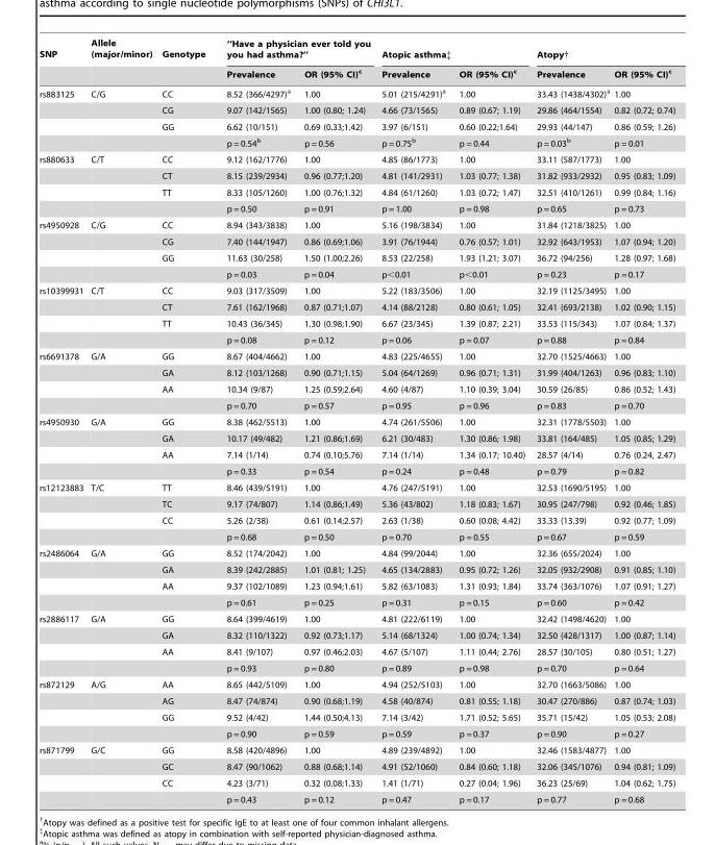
<table><thead><tr><td rowspan="2">SNP</td><td rowspan="2">Allele (major/minor)</td><td rowspan="2">Genotype</td><td colspan="2">‘‘Have a physician ever told you you had asthma?’’</td><td colspan="2">Atopic asthma‡</td><td colspan="2">Atopy†</td></tr><tr><td>Prevalence</td><td>OR (95% CI)<sup>c</sup></td><td>Prevalence</td><td>OR (95% CI)<sup>c</sup></td><td>Prevalence</td><td>OR (95% CI)<sup>c</sup></td></tr></thead><tbody><tr><td rowspan="4">rs883125</td><td>C/G</td><td>CC</td><td>8.52 (366/4297)<sup>a</sup></td><td>1.00</td><td>5.01 (215/4291)<sup>a</sup></td><td>1.00</td><td>33.43 (1438/4302)<sup>a</sup></td><td>1.00</td></tr><tr><td></td><td>CG</td><td>9.07 (142/1565)</td><td>1.00 (0.80; 1.24)</td><td>4.66 (73/1565)</td><td>0.89 (0.67; 1.19)</td><td>29.86 (464/1554)</td><td>0.82 (0.72; 0.74)</td></tr><tr><td></td><td>GG</td><td>6.62 (10/151)</td><td>0.69 (0.33;1.42)</td><td>3.97 (6/151)</td><td>0.60 (0.22;1.64)</td><td>29.93 (44/147)</td><td>0.86 (0.59; 1.26)</td></tr><tr><td></td><td></td><td>p = 0.54<sup>b</sup></td><td>p = 0.56</td><td>p = 0.75<sup>b</sup></td><td>p = 0.44</td><td>p = 0.03<sup>b</sup></td><td>p = 0.01</td></tr><tr><td rowspan="4">rs880633</td><td>C/T</td><td>CC</td><td>9.12 (162/1776)</td><td>1.00</td><td>4.85 (86/1773)</td><td>1.00</td><td>33.11 (587/1773)</td><td>1.00</td></tr><tr><td></td><td>CT</td><td>8.15 (239/2934)</td><td>0.96 (0.77;1.20)</td><td>4.81 (141/2931)</td><td>1.03 (0.77; 1.38)</td><td>31.82 (933/2932)</td><td>0.95 (0.83; 1.09)</td></tr><tr><td></td><td>TT</td><td>8.33 (105/1260)</td><td>1.00 (0.76;1.32)</td><td>4.84 (61/1260)</td><td>1.03 (0.72; 1.47)</td><td>32.51 (410/1261)</td><td>0.99 (0.84; 1.16)</td></tr><tr><td></td><td></td><td>p = 0.50</td><td>p = 0.91</td><td>p = 1.00</td><td>p = 0.98</td><td>p = 0.65</td><td>p = 0.73</td></tr><tr><td rowspan="4">rs4950928</td><td>C/G</td><td>CC</td><td>8.94 (343/3838)</td><td>1.00</td><td>5.16 (198/3834)</td><td>1.00</td><td>31.84 (1218/3825)</td><td>1.00</td></tr><tr><td></td><td>CG</td><td>7.40 (144/1947)</td><td>0.86 (0.69;1.06)</td><td>3.91 (76/1944)</td><td>0.76 (0.57; 1.01)</td><td>32.92 (643/1953)</td><td>1.07 (0.94; 1.20)</td></tr><tr><td></td><td>GG</td><td>11.63 (30/258)</td><td>1.50 (1.00;2.26)</td><td>8.53 (22/258)</td><td>1.93 (1.21; 3.07)</td><td>36.72 (94/256)</td><td>1.28 (0.97; 1.68)</td></tr><tr><td></td><td></td><td>p = 0.03</td><td>p = 0.04</td><td>p&lt;0.01</td><td>p&lt;0.01</td><td>p = 0.23</td><td>p = 0.17</td></tr><tr><td rowspan="4">rs10399931</td><td>C/T</td><td>CC</td><td>9.03 (317/3509)</td><td>1.00</td><td>5.22 (183/3506)</td><td>1.00</td><td>32.19 (1125/3495)</td><td>1.00</td></tr><tr><td></td><td>CT</td><td>7.61 (162/1968)</td><td>0.87 (0.71;1.07)</td><td>4.14 (88/2128)</td><td>0.80 (0.61; 1.05)</td><td>32.41 (693/2138)</td><td>1.02 (0.90; 1.15)</td></tr><tr><td></td><td>TT</td><td>10.43 (36/345)</td><td>1.30 (0.98;1.90)</td><td>6.67 (23/345)</td><td>1.39 (0.87; 2.21)</td><td>33.53 (115/343)</td><td>1.07 (0.84; 1.37)</td></tr><tr><td></td><td></td><td>p = 0.08</td><td>p = 0.12</td><td>p = 0.06</td><td>p = 0.07</td><td>p = 0.88</td><td>p = 0.84</td></tr><tr><td rowspan="4">rs6691378</td><td>G/A</td><td>GG</td><td>8.67 (404/4662)</td><td>1.00</td><td>4.83 (225/4655)</td><td>1.00</td><td>32.70 (1525/4663)</td><td>1.00</td></tr><tr><td></td><td>GA</td><td>8.12 (103/1268)</td><td>0.90 (0.71;1.15)</td><td>5.04 (64/1269)</td><td>0.96 (0.71; 1.31)</td><td>31.99 (404/1263)</td><td>0.96 (0.83; 1.10)</td></tr><tr><td></td><td>AA</td><td>10.34 (9/87)</td><td>1.25 (0.59;2.64)</td><td>4.60 (4/87)</td><td>1.10 (0.39; 3.04)</td><td>30.59 (26/85)</td><td>0.86 (0.52; 1.43)</td></tr><tr><td></td><td></td><td>p = 0.70</td><td>p = 0.57</td><td>p = 0.95</td><td>p = 0.96</td><td>p = 0.83</td><td>p = 0.70</td></tr><tr><td rowspan="4">rs4950930</td><td>G/A</td><td>GG</td><td>8.38 (462/5513)</td><td>1.00</td><td>4.74 (261/5506)</td><td>1.00</td><td>32.31 (1778/5503)</td><td>1.00</td></tr><tr><td></td><td>GA</td><td>10.17 (49/482)</td><td>1.21 (0.86;1.69)</td><td>6.21 (30/483)</td><td>1.30 (0.86; 1.98)</td><td>33.81 (164/485)</td><td>1.05 (0.85; 1.29)</td></tr><tr><td></td><td>AA</td><td>7.14 (1/14)</td><td>0.74 (0.10;5.76)</td><td>7.14 (1/14)</td><td>1.34 (0.17; 10.40)</td><td>28.57 (4/14)</td><td>0.76 (0.24, 2.47)</td></tr><tr><td></td><td></td><td>p = 0.33</td><td>p = 0.54</td><td>p = 0.24</td><td>p = 0.48</td><td>p = 0.79</td><td>p = 0.82</td></tr><tr><td rowspan="4">rs12123883</td><td>T/C</td><td>TT</td><td>8.46 (439/5191)</td><td>1.00</td><td>4.76 (247/5191)</td><td>1.00</td><td>32.53 (1690/5195)</td><td>1.00</td></tr><tr><td></td><td>TC</td><td>9.17 (74/807)</td><td>1.14 (0.86;1.49)</td><td>5.36 (43/802)</td><td>1.18 (0.83; 1.67)</td><td>30.95 (247/798)</td><td>0.92 (0.46; 1.85)</td></tr><tr><td></td><td>CC</td><td>5.26 (2/38)</td><td>0.61 (0.14;2.57)</td><td>2.63 (1/38)</td><td>0.60 (0.08; 4.42)</td><td>33.33 (13.39)</td><td>0.92 (0.77; 1.09)</td></tr><tr><td></td><td></td><td>p = 0.68</td><td>p = 0.50</td><td>p = 0.70</td><td>p = 0.55</td><td>p = 0.67</td><td>p = 0.59</td></tr><tr><td rowspan="4">rs2486064</td><td>G/A</td><td>GG</td><td>8.52 (174/2042)</td><td>1.00</td><td>4.84 (99/2044)</td><td>1.00</td><td>32.36 (655/2024)</td><td>1.00</td></tr><tr><td></td><td>GA</td><td>8.39 (242/2885)</td><td>1.01 (0.81; 1.25)</td><td>4.65 (134/2883)</td><td>0.95 (0.72; 1.26)</td><td>32.05 (932/2908)</td><td>0.91 (0.85; 1.10)</td></tr><tr><td></td><td>AA</td><td>9.37 (102/1089)</td><td>1.23 (0.94;1.61)</td><td>5.82 (63/1083)</td><td>1.31 (0.93; 1.84)</td><td>33.74 (363/1076)</td><td>1.07 (0.91; 1.27)</td></tr><tr><td></td><td></td><td>p = 0.61</td><td>p = 0.25</td><td>p = 0.31</td><td>p = 0.15</td><td>p = 0.60</td><td>p = 0.42</td></tr><tr><td rowspan="4">rs2886117</td><td>G/A</td><td>GG</td><td>8.64 (399/4619)</td><td>1.00</td><td>4.81 (222/6119)</td><td>1.00</td><td>32.42 (1498/4620)</td><td>1.00</td></tr><tr><td></td><td>GA</td><td>8.32 (110/1322)</td><td>0.92 (0.73;1.17)</td><td>5.14 (68/1324)</td><td>1.00 (0.74; 1.34)</td><td>32.50 (428/1317)</td><td>1.00 (0.87; 1.14)</td></tr><tr><td></td><td>AA</td><td>8.41 (9/107)</td><td>0.97 (0.46;2.03)</td><td>4.67 (5/107)</td><td>1.11 (0.44; 2.76)</td><td>28.57 (30/105)</td><td>0.80 (0.51; 1.27)</td></tr><tr><td></td><td></td><td>p = 0.93</td><td>p = 0.80</td><td>p = 0.89</td><td>p = 0.98</td><td>p = 0.70</td><td>p = 0.64</td></tr><tr><td rowspan="4">rs872129</td><td>A/G</td><td>AA</td><td>8.65 (442/5109)</td><td>1.00</td><td>4.94 (252/5103)</td><td>1.00</td><td>32.70 (1663/5086)</td><td>1.00</td></tr><tr><td></td><td>AG</td><td>8.47 (74/874)</td><td>0.90 (0.68;1.19)</td><td>4.58 (40/874)</td><td>0.81 (0.55; 1.18)</td><td>30.47 (270/886)</td><td>0.87 (0.74; 1.03)</td></tr><tr><td></td><td>GG</td><td>9.52 (4/42)</td><td>1.44 (0.50;4.13)</td><td>7.14 (3/42)</td><td>1.71 (0.52; 5.65)</td><td>35.71 (15/42)</td><td>1.05 (0.53; 2.08)</td></tr><tr><td></td><td></td><td>p = 0.90</td><td>p = 0.59</td><td>p = 0.59</td><td>p = 0.37</td><td>p = 0.90</td><td>p = 0.27</td></tr><tr><td rowspan="4">rs871799</td><td>G/C</td><td>GG</td><td>8.58 (420/4896)</td><td>1.00</td><td>4.89 (239/4892)</td><td>1.00</td><td>32.46 (1583/4877)</td><td>1.00</td></tr><tr><td></td><td>GC</td><td>8.47 (90/1062)</td><td>0.88 (0.68;1.14)</td><td>4.91 (52/1060)</td><td>0.84 (0.60; 1.18)</td><td>32.06 (345/1076)</td><td>0.94 (0.81; 1.09)</td></tr><tr><td></td><td>CC</td><td>4.23 (3/71)</td><td>0.32 (0.08;1.33)</td><td>1.41 (1/71)</td><td>0.27 (0.04; 1.96)</td><td>36.23 (25/69)</td><td>1.04 (0.62; 1.75)</td></tr><tr><td></td><td></td><td>p = 0.43</td><td>p = 0.12</td><td>p = 0.47</td><td>p = 0.17</td><td>p = 0.77</td><td>p = 0.68</td></tr></tbody></table>